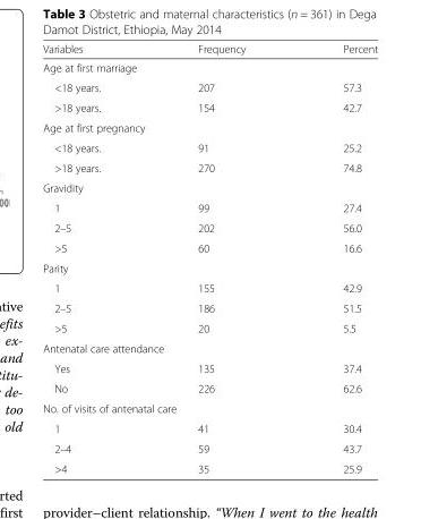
<table><thead><tr><td>Variables</td><td>Frequency</td><td>Percent</td></tr></thead><tbody><tr><td colspan="3">Age at first marriage</td></tr><tr><td>&lt;18 years.</td><td>207</td><td>57.3</td></tr><tr><td>&gt;18 years.</td><td>154</td><td>42.7</td></tr><tr><td colspan="3">Age at first pregnancy</td></tr><tr><td>&lt;18 years.</td><td>91</td><td>25.2</td></tr><tr><td>&gt;18 years.</td><td>270</td><td>74.8</td></tr><tr><td colspan="3">Gravidity</td></tr><tr><td>1</td><td>99</td><td>27.4</td></tr><tr><td>2–5</td><td>202</td><td>56.0</td></tr><tr><td>&gt;5</td><td>60</td><td>16.6</td></tr><tr><td colspan="3">Parity</td></tr><tr><td>1</td><td>155</td><td>42.9</td></tr><tr><td>2–5</td><td>186</td><td>51.5</td></tr><tr><td>&gt;5</td><td>20</td><td>5.5</td></tr><tr><td colspan="3">Antenatal care attendance</td></tr><tr><td>Yes</td><td>135</td><td>37.4</td></tr><tr><td>No</td><td>226</td><td>62.6</td></tr><tr><td colspan="3">No. of visits of antenatal care</td></tr><tr><td>1</td><td>41</td><td>30.4</td></tr><tr><td>2–4</td><td>59</td><td>43.7</td></tr><tr><td>&gt;4</td><td>35</td><td>25.9</td></tr></tbody></table>